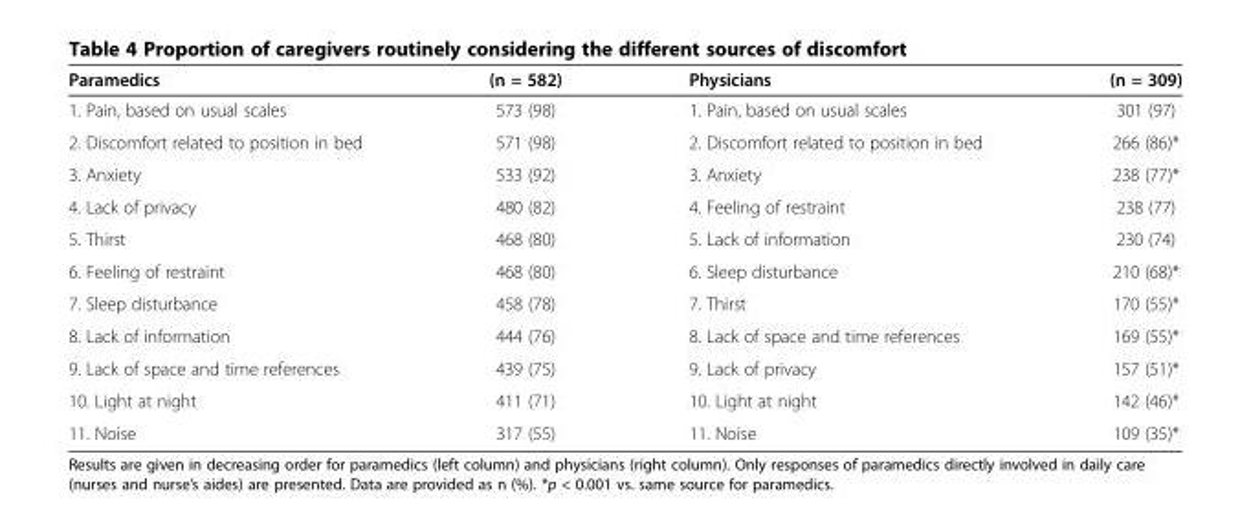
<table><thead><tr><td>Paramedics</td><td>(n = 582)</td><td>Physicians</td><td>(n = 309)</td></tr></thead><tbody><tr><td>1. Pain, based on usual scales</td><td>573 (98)</td><td>1. Pain, based on usual scales</td><td>301 (97)</td></tr><tr><td>2. Discomfort related to position in bed</td><td>571 (98)</td><td>2. Discomfort related to position in bed</td><td>266 (86)*</td></tr><tr><td>3. Anxiety</td><td>533 (92)</td><td>3. Anxiety</td><td>238 (77)*</td></tr><tr><td>4. Lack of privacy</td><td>480 (82)</td><td>4. Feeling of restraint</td><td>238 (77)</td></tr><tr><td>5. Thirst</td><td>468 (80)</td><td>5. Lack of information</td><td>230 (74)</td></tr><tr><td>6. Feeling of restraint</td><td>468 (80)</td><td>6. Sleep disturbance</td><td>210 (68)*</td></tr><tr><td>7. Sleep disturbance</td><td>458 (78)</td><td>7. Thirst</td><td>170 (55)*</td></tr><tr><td>8. Lack of information</td><td>444 (76)</td><td>8. Lack of space and time references</td><td>169 (55)*</td></tr><tr><td>9. Lack of space and time references</td><td>439 (75)</td><td>9. Lack of privacy</td><td>157 (51)*</td></tr><tr><td>10. Light at night</td><td>411 (71)</td><td>10. Light at night</td><td>142 (46)*</td></tr><tr><td>11. Noise</td><td>317 (55)</td><td>11. Noise</td><td>109 (35)*</td></tr></tbody></table>